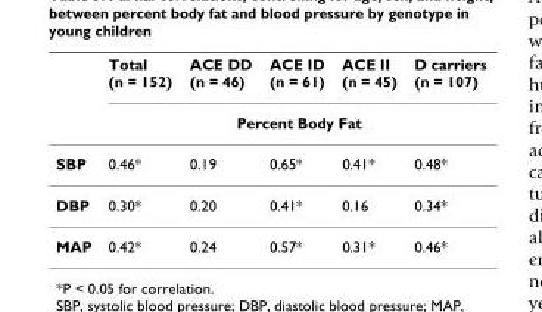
<table><thead><tr><td rowspan="2"></td><td>Total (n = 152)</td><td>ACE DD (n = 46)</td><td>ACE ID (n = 61)</td><td>ACE II (n = 45)</td><td>D carriers (n = 107)</td></tr><tr><td colspan="5">Percent Body Fat</td></tr></thead><tbody><tr><td>SBP</td><td>0.46*</td><td>0.19</td><td>0.65*</td><td>0.41*</td><td>0.48*</td></tr><tr><td>DBP</td><td>0.30*</td><td>0.20</td><td>0.41*</td><td>0.16</td><td>0.34*</td></tr><tr><td>MAP</td><td>0.42*</td><td>0.24</td><td>0.57*</td><td>0.31*</td><td>0.46*</td></tr></tbody></table>